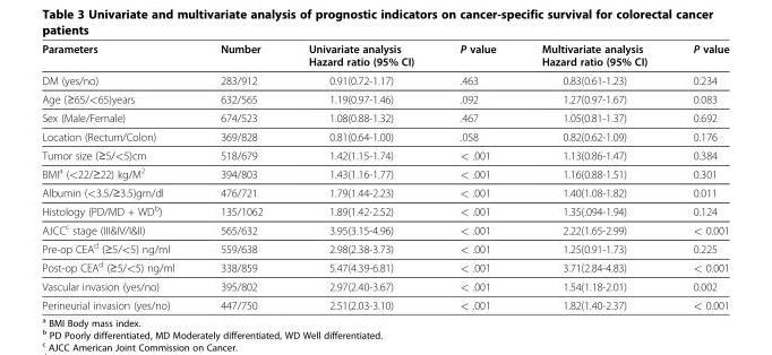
<table><thead><tr><td>Parameters</td><td>Number</td><td>Univariate analysis Hazard ratio (95% CI)</td><td>P value</td><td>Multivariate analysis Hazard ratio (95% CI)</td><td>P value</td></tr></thead><tbody><tr><td>DM (yes/no)</td><td>283/912</td><td>0.91(0.72-1.17)</td><td>.463</td><td>0.83(0.61-1.23)</td><td>0.234</td></tr><tr><td>Age (≥65/&lt;65)years</td><td>632/565</td><td>1.19(0.97-1.46)</td><td>.092</td><td>1.27(0.97-1.67)</td><td>0.083</td></tr><tr><td>Sex (Male/Female)</td><td>674/523</td><td>1.08(0.88-1.32)</td><td>.467</td><td>1.05(0.81-1.37)</td><td>0.692</td></tr><tr><td>Location (Rectum/Colon)</td><td>369/828</td><td>0.81(0.64-1.00)</td><td>.058</td><td>0.82(0.62-1.09)</td><td>0.176</td></tr><tr><td>Tumor size (≥5/&lt;5)cm</td><td>518/679</td><td>1.42(1.15-1.74)</td><td>&lt; .001</td><td>1.13(0.86-1.47)</td><td>0.384</td></tr><tr><td>BMI<sup>a</sup> (&lt;22/≥22) kg/M<sup>2</sup></td><td>394/803</td><td>1.43(1.16-1.77)</td><td>&lt; .001</td><td>1.16(0.88-1.51)</td><td>0.301</td></tr><tr><td>Albumin (&lt;3.5/≥3.5)gm/dl</td><td>476/721</td><td>1.79(1.44-2.23)</td><td>&lt; .001</td><td>1.40(1.08-1.82)</td><td>0.011</td></tr><tr><td>Histology (PD/MD + WD<sup>b</sup>)</td><td>135/1062</td><td>1.89(1.42-2.52)</td><td>&lt; .001</td><td>1.35(.094-1.94)</td><td>0.124</td></tr><tr><td>AJCC<sup>c</sup> stage (III&amp;IV/I&amp;II)</td><td>565/632</td><td>3.95(3.15-4.96)</td><td>&lt; .001</td><td>2.22(1.65-2.99)</td><td>&lt; 0.001</td></tr><tr><td>Pre-op CEA<sup>d</sup> (≥5/&lt;5) ng/ml</td><td>559/638</td><td>2.98(2.38-3.73)</td><td>&lt; .001</td><td>1.25(0.91-1.73)</td><td>0.225</td></tr><tr><td>Post-op CEA<sup>d</sup> (≥5/&lt;5) ng/ml</td><td>338/859</td><td>5.47(4.39-6.81)</td><td>&lt; .001</td><td>3.71(2.84-4.83)</td><td>&lt; 0.001</td></tr><tr><td>Vascular invasion (yes/no)</td><td>395/802</td><td>2.97(2.40-3.67)</td><td>&lt; .001</td><td>1.54(1.18-2.01)</td><td>0.002</td></tr><tr><td>Perineurial invasion (yes/no)</td><td>447/750</td><td>2.51(2.03-3.10)</td><td>&lt; .001</td><td>1.82(1.40-2.37)</td><td>&lt; 0.001</td></tr></tbody></table>